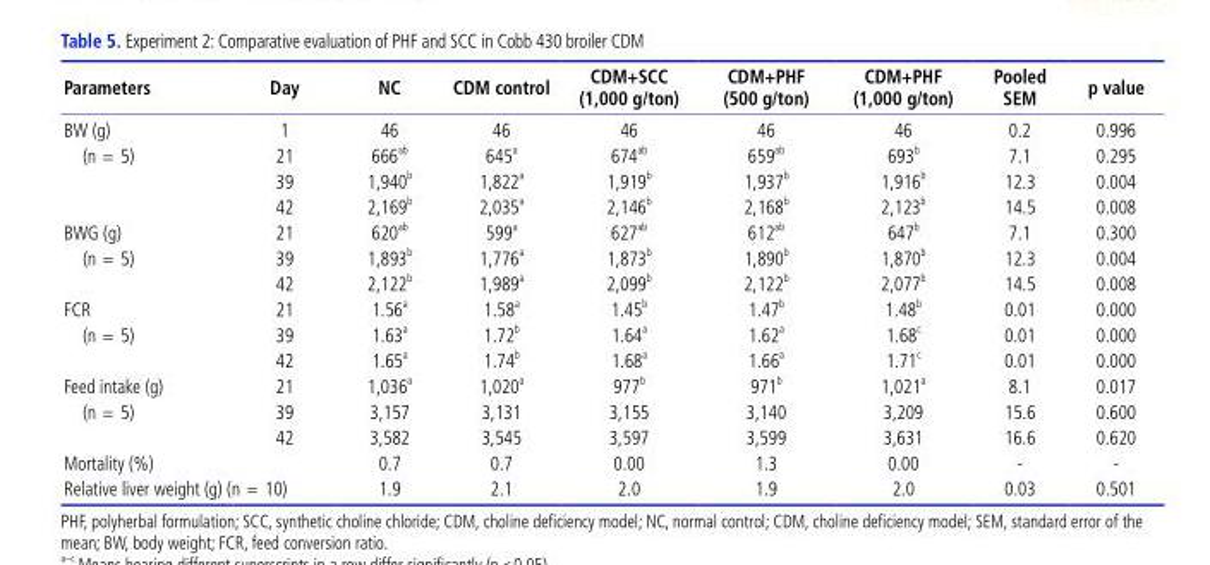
<table><thead><tr><td>Parameters</td><td>Day</td><td>NC</td><td>CDM control</td><td>CDM+SCC (1,000 g/ton)</td><td>CDM+PHF (500 g/ton)</td><td>CDM+PHF (1,000 g/ton)</td><td>Pooled SEM</td><td>p value</td></tr></thead><tbody><tr><td rowspan="4">BW (g) (n = 5)</td><td>1</td><td>46</td><td>46</td><td>46</td><td>46</td><td>46</td><td>0.2</td><td>0.996</td></tr><tr><td>21</td><td>666 <sup>ab</sup></td><td>645 <sup>a</sup></td><td>674 <sup>ab</sup></td><td>659 <sup>ab</sup></td><td>693 <sup>b</sup></td><td>7.1</td><td>0.295</td></tr><tr><td>39</td><td>1,940 <sup>b</sup></td><td>1,822 <sup>a</sup></td><td>1,919 <sup>b</sup></td><td>1,937 <sup>b</sup></td><td>1,916 <sup>b</sup></td><td>12.3</td><td>0.004</td></tr><tr><td>42</td><td>2,169 <sup>b</sup></td><td>2,035 <sup>a</sup></td><td>2,146 <sup>b</sup></td><td>2,168 <sup>b</sup></td><td>2,123 <sup>b</sup></td><td>14.5</td><td>0.008</td></tr><tr><td rowspan="3">BWG (g) (n = 5)</td><td>21</td><td>620 <sup>ab</sup></td><td>599 <sup>a</sup></td><td>627 <sup>ab</sup></td><td>612 <sup>ab</sup></td><td>647 <sup>b</sup></td><td>7.1</td><td>0.300</td></tr><tr><td>39</td><td>1,893 <sup>b</sup></td><td>1,776 <sup>a</sup></td><td>1,873 <sup>b</sup></td><td>1,890 <sup>b</sup></td><td>1,870 <sup>b</sup></td><td>12.3</td><td>0.004</td></tr><tr><td>42</td><td>2,122 <sup>b</sup></td><td>1,989 <sup>a</sup></td><td>2,099 <sup>b</sup></td><td>2,122 <sup>b</sup></td><td>2,077 <sup>b</sup></td><td>14.5</td><td>0.008</td></tr><tr><td rowspan="3">FCR (n = 5)</td><td>21</td><td>1.56 <sup>a</sup></td><td>1.58 <sup>a</sup></td><td>1.45 <sup>b</sup></td><td>1.47 <sup>b</sup></td><td>1.48 <sup>b</sup></td><td>0.01</td><td>0.000</td></tr><tr><td>39</td><td>1.63 <sup>a</sup></td><td>1.72 <sup>b</sup></td><td>1.64 <sup>a</sup></td><td>1.62 <sup>a</sup></td><td>1.68 <sup>c</sup></td><td>0.01</td><td>0.000</td></tr><tr><td>42</td><td>1.65 <sup>a</sup></td><td>1.74 <sup>b</sup></td><td>1.68 <sup>a</sup></td><td>1.66 <sup>a</sup></td><td>1.71 <sup>c</sup></td><td>0.01</td><td>0.000</td></tr><tr><td rowspan="3">Feed intake (g) (n = 5)</td><td>21</td><td>1,036 <sup>a</sup></td><td>1,020 <sup>a</sup></td><td>977 <sup>b</sup></td><td>971 <sup>b</sup></td><td>1,021 <sup>a</sup></td><td>8.1</td><td>0.017</td></tr><tr><td>39</td><td>3,157</td><td>3,131</td><td>3,155</td><td>3,140</td><td>3,209</td><td>15.6</td><td>0.600</td></tr><tr><td>42</td><td>3,582</td><td>3,545</td><td>3,597</td><td>3,599</td><td>3,631</td><td>16.6</td><td>0.620</td></tr><tr><td>Mortality (%)</td><td></td><td>0.7</td><td>0.7</td><td>0.00</td><td>1.3</td><td>0.00</td><td>-</td><td>-</td></tr><tr><td colspan="2">Relative liver weight (g) (n = 10)</td><td>1.9</td><td>2.1</td><td>2.0</td><td>1.9</td><td>2.0</td><td>0.03</td><td>0.501</td></tr></tbody></table>